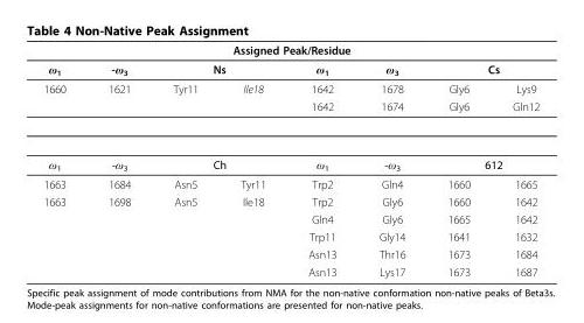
<table><thead><tr><td colspan="8">Assigned Peak/Residue</td></tr><tr><td rowspan="2">ω1 1660</td><td rowspan="2">-ω3 1621</td><td colspan="2">Ns</td><td rowspan="2">ω1 1642</td><td rowspan="2">ω3 1678</td><td colspan="2">Cs</td></tr><tr><td>Tyr11</td><td>Ile18</td><td>Gly6</td><td>Lys9</td></tr></thead><tbody><tr><td></td><td></td><td></td><td></td><td>1642</td><td>1674</td><td>Gly6</td><td>Gln12</td></tr><tr><td>ω<sub>1</sub></td><td>-ω<sub>3</sub></td><td colspan="2">Ch</td><td>ω<sub>1</sub></td><td>-ω<sub>3</sub></td><td colspan="2">612</td></tr><tr><td>1663</td><td>1684</td><td>Asn5</td><td>Tyr11</td><td>Trp2</td><td>Gln4</td><td>1660</td><td>1665</td></tr><tr><td rowspan="5">1663</td><td>1698</td><td>Asn5</td><td>Ile18</td><td>Trp2</td><td>Gly6</td><td>1660</td><td>1642</td></tr><tr><td></td><td></td><td></td><td>Gln4</td><td>Gly6</td><td>1665</td><td>1642</td></tr><tr><td></td><td></td><td></td><td>Trp11</td><td>Gly14</td><td>1641</td><td>1632</td></tr><tr><td></td><td></td><td></td><td>Asn13</td><td>Thr16</td><td>1673</td><td>1684</td></tr><tr><td></td><td></td><td></td><td>Asn13</td><td>Lys17</td><td>1673</td><td>1687</td></tr></tbody></table>